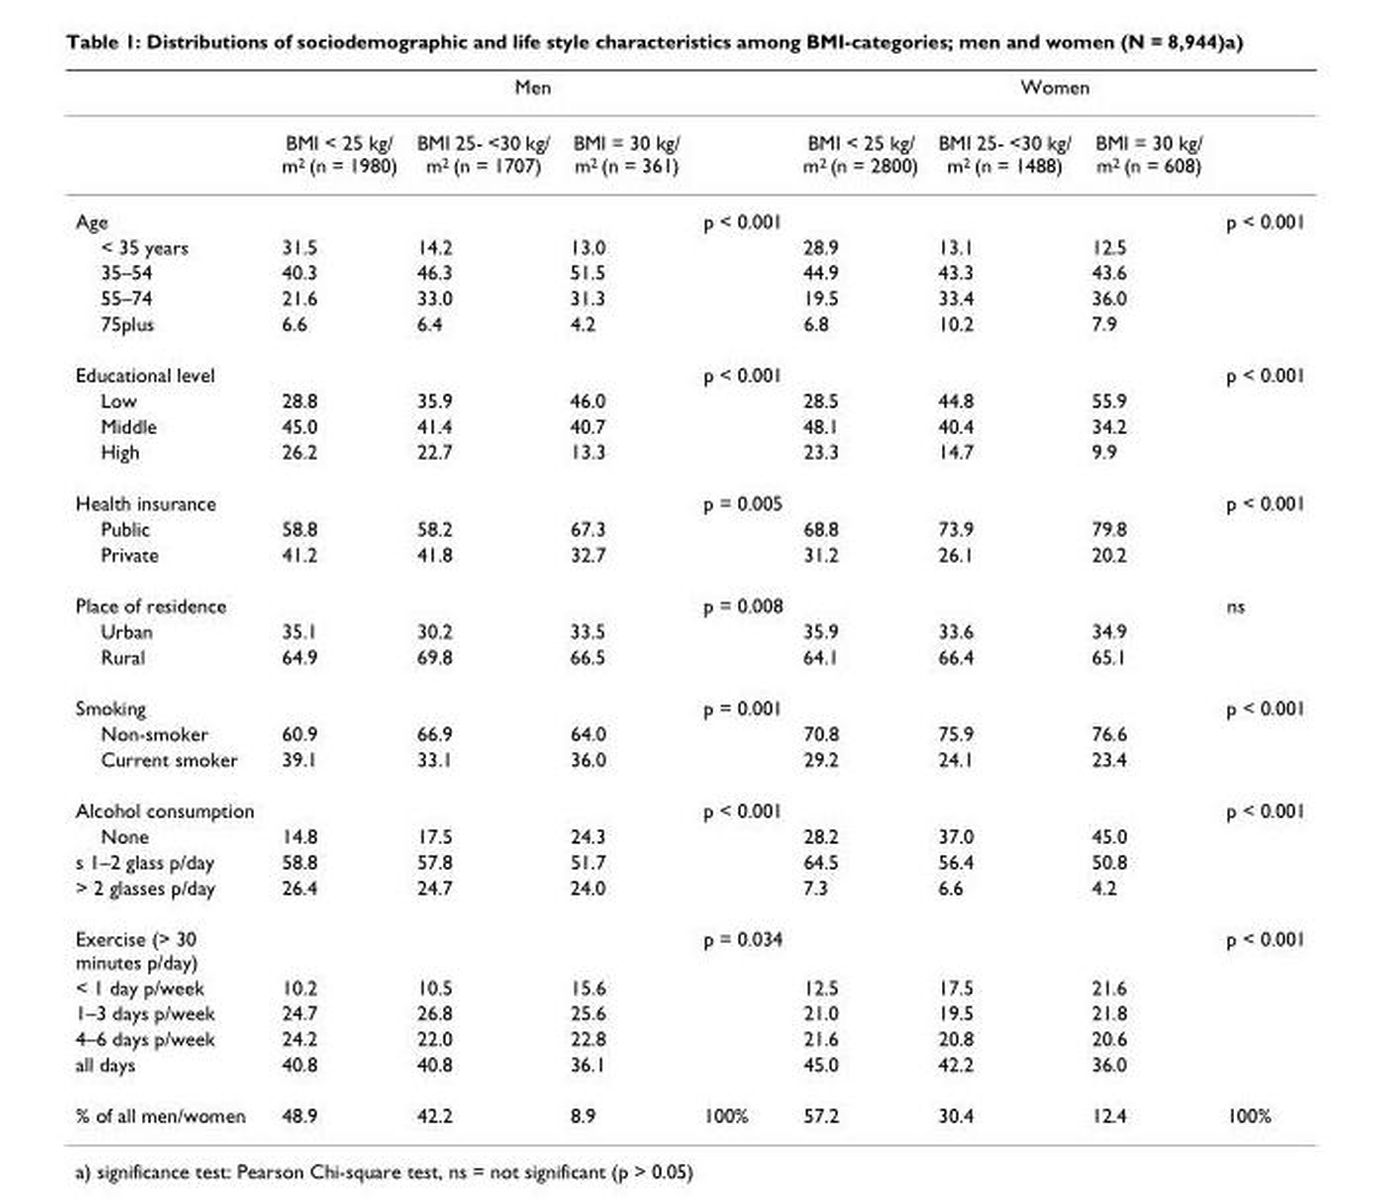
<table><thead><tr><td rowspan="2"></td><td colspan="4">Men</td><td colspan="4">Women</td></tr><tr><td>BMI &lt; 25 kg/ m<sup>2</sup> (n = 1980)</td><td>BMI 25- &lt;30 kg/ m<sup>2</sup> (n = 1707)</td><td>BMI = 30 kg/ m<sup>2</sup> (n = 361)</td><td></td><td>BMI &lt; 25 kg/ m<sup>2</sup> (n = 2800)</td><td>BMI 25- &lt;30 kg/ m<sup>2</sup> (n = 1488)</td><td>BMI = 30 kg/ m<sup>2</sup> (n = 608)</td><td></td></tr></thead><tbody><tr><td>Age</td><td></td><td></td><td></td><td>p &lt; 0.001</td><td></td><td></td><td></td><td>p &lt; 0.001</td></tr><tr><td>&lt; 35 years</td><td>31.5</td><td>14.2</td><td>13.0</td><td></td><td>28.9</td><td>13.1</td><td>12.5</td><td></td></tr><tr><td>35–54</td><td>40.3</td><td>46.3</td><td>51.5</td><td></td><td>44.9</td><td>43.3</td><td>43.6</td><td></td></tr><tr><td>55–74</td><td>21.6</td><td>33.0</td><td>31.3</td><td></td><td>19.5</td><td>33.4</td><td>36.0</td><td></td></tr><tr><td>75plus</td><td>6.6</td><td>6.4</td><td>4.2</td><td></td><td>6.8</td><td>10.2</td><td>7.9</td><td></td></tr><tr><td>Educational level</td><td></td><td></td><td></td><td>p &lt; 0.001</td><td></td><td></td><td></td><td>p &lt; 0.001</td></tr><tr><td>Low</td><td>28.8</td><td>35.9</td><td>46.0</td><td></td><td>28.5</td><td>44.8</td><td>55.9</td><td></td></tr><tr><td>Middle</td><td>45.0</td><td>41.4</td><td>40.7</td><td></td><td>48.1</td><td>40.4</td><td>34.2</td><td></td></tr><tr><td>High</td><td>26.2</td><td>22.7</td><td>13.3</td><td></td><td>23.3</td><td>14.7</td><td>9.9</td><td></td></tr><tr><td>Health insurance</td><td></td><td></td><td></td><td>p = 0.005</td><td></td><td></td><td></td><td>p &lt; 0.001</td></tr><tr><td>Public</td><td>58.8</td><td>58.2</td><td>67.3</td><td></td><td>68.8</td><td>73.9</td><td>79.8</td><td></td></tr><tr><td>Private</td><td>41.2</td><td>41.8</td><td>32.7</td><td></td><td>31.2</td><td>26.1</td><td>20.2</td><td></td></tr><tr><td>Place of residence</td><td></td><td></td><td></td><td>p = 0.008</td><td></td><td></td><td></td><td>ns</td></tr><tr><td>Urban</td><td>35.1</td><td>30.2</td><td>33.5</td><td></td><td>35.9</td><td>33.6</td><td>34.9</td><td></td></tr><tr><td>Rural</td><td>64.9</td><td>69.8</td><td>66.5</td><td></td><td>64.1</td><td>66.4</td><td>65.1</td><td></td></tr><tr><td>Smoking</td><td></td><td></td><td></td><td>p = 0.001</td><td></td><td></td><td></td><td>p &lt; 0.001</td></tr><tr><td>Non-smoker</td><td>60.9</td><td>66.9</td><td>64.0</td><td></td><td>70.8</td><td>75.9</td><td>76.6</td><td></td></tr><tr><td>Current smoker</td><td>39.1</td><td>33.1</td><td>36.0</td><td></td><td>29.2</td><td>24.1</td><td>23.4</td><td></td></tr><tr><td>Alcohol consumption</td><td></td><td></td><td></td><td>p &lt; 0.001</td><td></td><td></td><td></td><td>p &lt; 0.001</td></tr><tr><td>None</td><td>14.8</td><td>17.5</td><td>24.3</td><td></td><td>28.2</td><td>37.0</td><td>45.0</td><td></td></tr><tr><td>s 1–2 glass p/day</td><td>58.8</td><td>57.8</td><td>51.7</td><td></td><td>64.5</td><td>56.4</td><td>50.8</td><td></td></tr><tr><td>&gt; 2 glasses p/day</td><td>26.4</td><td>24.7</td><td>24.0</td><td></td><td>7.3</td><td>6.6</td><td>4.2</td><td></td></tr><tr><td>Exercise (&gt; 30 minutes p/day)</td><td></td><td></td><td></td><td>p = 0.034</td><td></td><td></td><td></td><td>p &lt; 0.001</td></tr><tr><td>&lt; 1 day p/week</td><td>10.2</td><td>10.5</td><td>15.6</td><td></td><td>12.5</td><td>17.5</td><td>21.6</td><td></td></tr><tr><td>1–3 days p/week</td><td>24.7</td><td>26.8</td><td>25.6</td><td></td><td>21.0</td><td>19.5</td><td>21.8</td><td></td></tr><tr><td>4–6 days p/week</td><td>24.2</td><td>22.0</td><td>22.8</td><td></td><td>21.6</td><td>20.8</td><td>20.6</td><td></td></tr><tr><td>all days</td><td>40.8</td><td>40.8</td><td>36.1</td><td></td><td>45.0</td><td>42.2</td><td>36.0</td><td></td></tr><tr><td>% of all men/women</td><td>48.9</td><td>42.2</td><td>8.9</td><td>100%</td><td>57.2</td><td>30.4</td><td>12.4</td><td>100%</td></tr></tbody></table>